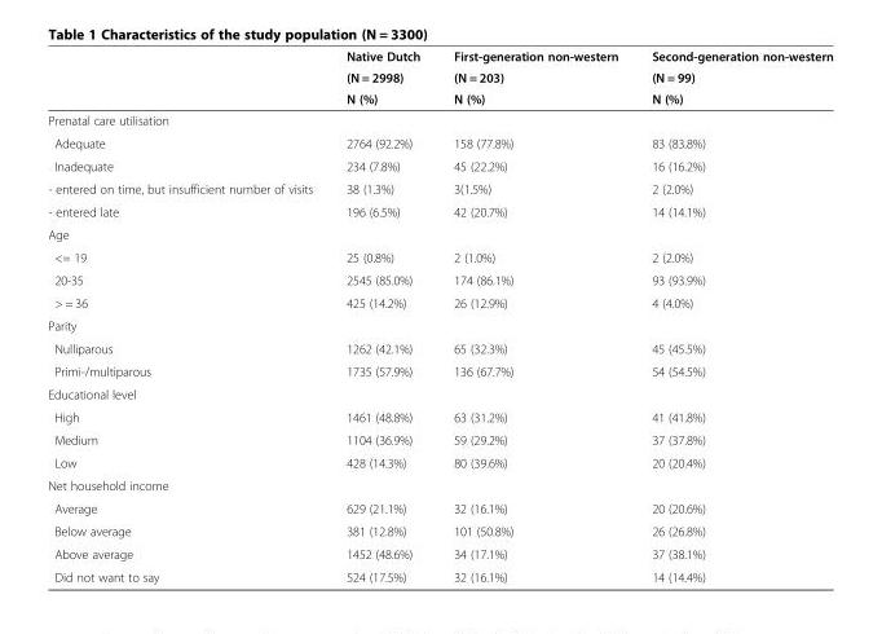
<table><thead><tr><td rowspan="3"></td><td rowspan="3">Native Dutch (N = 2998) N (%)</td><td rowspan="3">First-generation non-western (N = 203) N (%)</td><td rowspan="3">Second-generation non-western (N = 99) N (%)</td></tr><tr></tr><tr></tr></thead><tbody><tr><td colspan="4">Prenatal care utilisation</td></tr><tr><td>Adequate</td><td>2764 (92.2%)</td><td>158 (77.8%)</td><td>83 (83.8%)</td></tr><tr><td>Inadequate</td><td>234 (7.8%)</td><td>45 (22.2%)</td><td>16 (16.2%)</td></tr><tr><td>- entered on time, but insufficient number of visits</td><td>38 (1.3%)</td><td>3(1.5%)</td><td>2 (2.0%)</td></tr><tr><td>- entered late</td><td>196 (6.5%)</td><td>42 (20.7%)</td><td>14 (14.1%)</td></tr><tr><td colspan="4">Age</td></tr><tr><td>&lt;= 19</td><td>25 (0.8%)</td><td>2 (1.0%)</td><td>2 (2.0%)</td></tr><tr><td>20-35</td><td>2545 (85.0%)</td><td>174 (86.1%)</td><td>93 (93.9%)</td></tr><tr><td>&gt; = 36</td><td>425 (14.2%)</td><td>26 (12.9%)</td><td>4 (4.0%)</td></tr><tr><td colspan="4">Parity</td></tr><tr><td>Nulliparous</td><td>1262 (42.1%)</td><td>65 (32.3%)</td><td>45 (45.5%)</td></tr><tr><td>Primi-/multiparous</td><td>1735 (57.9%)</td><td>136 (67.7%)</td><td>54 (54.5%)</td></tr><tr><td colspan="4">Educational level</td></tr><tr><td>High</td><td>1461 (48.8%)</td><td>63 (31.2%)</td><td>41 (41.8%)</td></tr><tr><td>Medium</td><td>1104 (36.9%)</td><td>59 (29.2%)</td><td>37 (37.8%)</td></tr><tr><td>Low</td><td>428 (14.3%)</td><td>80 (39.6%)</td><td>20 (20.4%)</td></tr><tr><td colspan="4">Net household income</td></tr><tr><td>Average</td><td>629 (21.1%)</td><td>32 (16.1%)</td><td>20 (20.6%)</td></tr><tr><td>Below average</td><td>381 (12.8%)</td><td>101 (50.8%)</td><td>26 (26.8%)</td></tr><tr><td>Above average</td><td>1452 (48.6%)</td><td>34 (17.1%)</td><td>37 (38.1%)</td></tr><tr><td>Did not want to say</td><td>524 (17.5%)</td><td>32 (16.1%)</td><td>14 (14.4%)</td></tr></tbody></table>